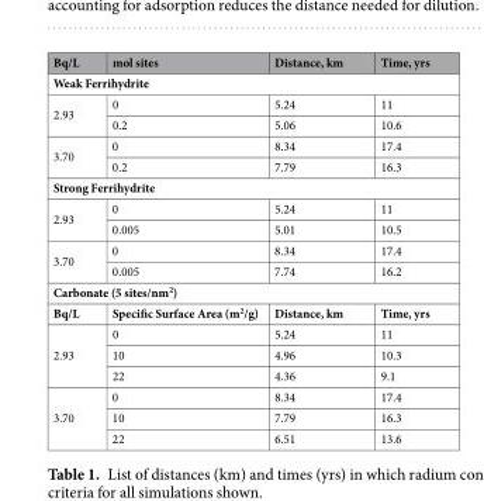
<table><thead><tr><td>Bq/L</td><td>mol sites</td><td>Distance, km</td><td>Time, yrs</td></tr></thead><tbody><tr><td colspan="4">Weak Ferrihydrite</td></tr><tr><td rowspan="2">2.93</td><td>0</td><td>5.24</td><td>11</td></tr><tr><td>0.2</td><td>5.06</td><td>10.6</td></tr><tr><td rowspan="2">3.70</td><td>0</td><td>8.34</td><td>17.4</td></tr><tr><td>0.2</td><td>7.79</td><td>16.3</td></tr><tr><td colspan="4">Strong Ferrihydrite</td></tr><tr><td rowspan="2">2.93</td><td>0</td><td>5.24</td><td>11</td></tr><tr><td>0.005</td><td>5.01</td><td>10.5</td></tr><tr><td rowspan="2">3.70</td><td>0</td><td>8.34</td><td>17.4</td></tr><tr><td>0.005</td><td>7.74</td><td>16.2</td></tr><tr><td colspan="4">Carbonate (5 sites/nm<sup>2</sup>)</td></tr><tr><td>Bq/L</td><td>Specific Surface Area (m<sup>2</sup>/g)</td><td>Distance, km</td><td>Time, yrs</td></tr><tr><td rowspan="3">2.93</td><td>0</td><td>5.24</td><td>11</td></tr><tr><td>10</td><td>4.96</td><td>10.3</td></tr><tr><td>22</td><td>4.36</td><td>9.1</td></tr><tr><td rowspan="3">3.70</td><td>0</td><td>8.34</td><td>17.4</td></tr><tr><td>10</td><td>7.79</td><td>16.3</td></tr><tr><td>22</td><td>6.51</td><td>13.6</td></tr></tbody></table>